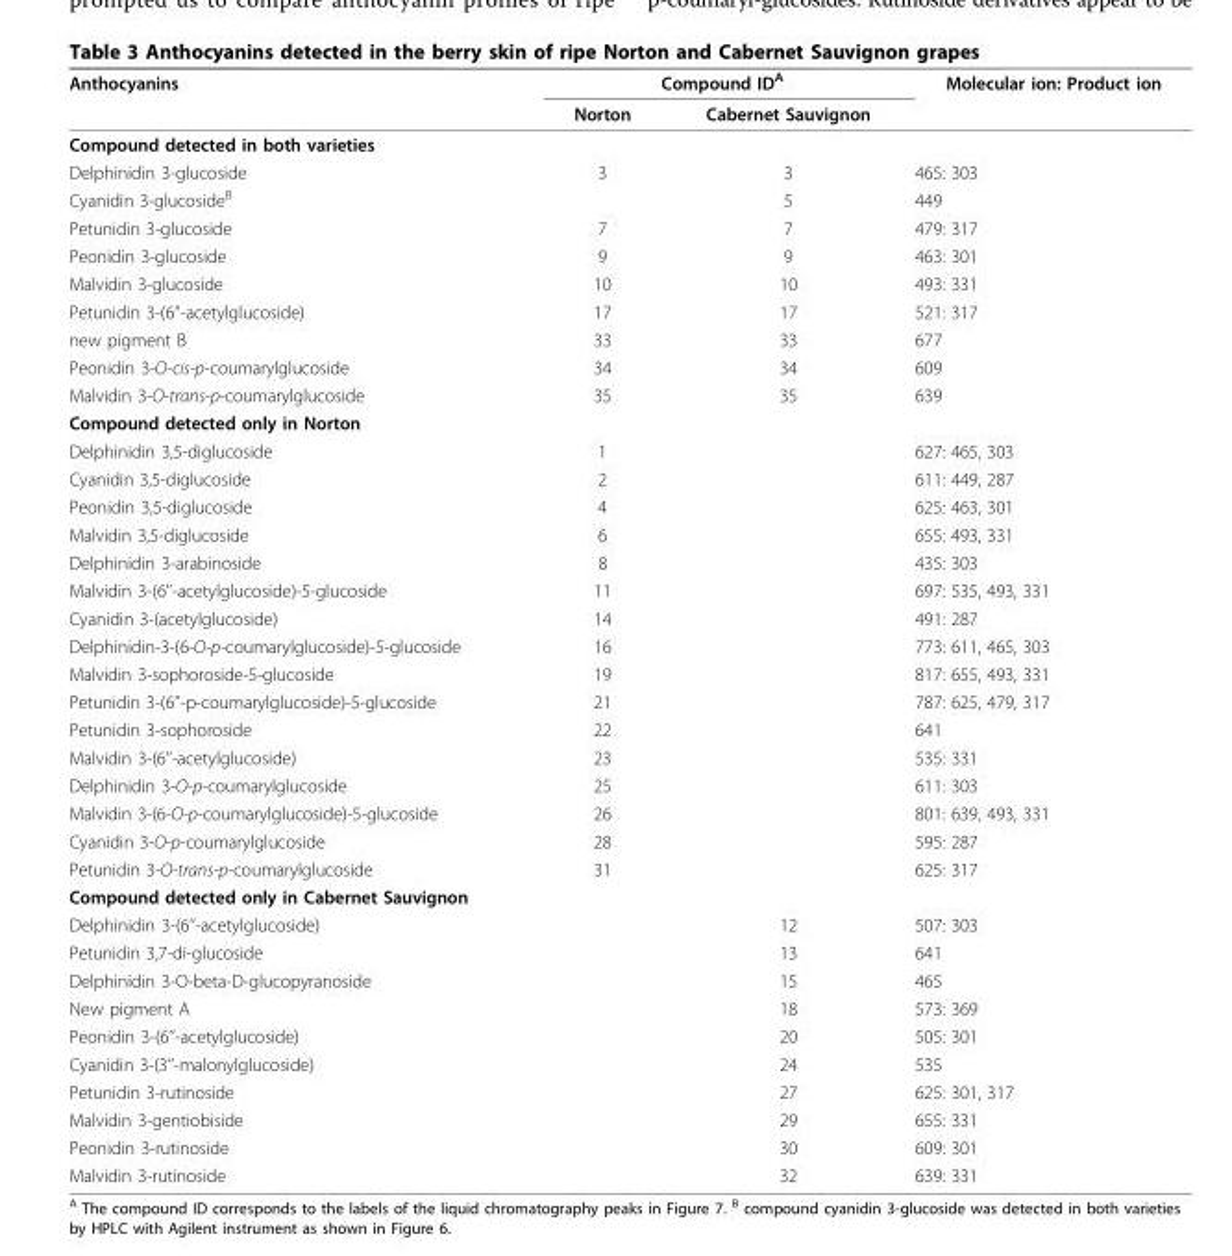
<table><thead><tr><td rowspan="2">Anthocyanins</td><td colspan="2">Compound ID<sup>A</sup></td><td rowspan="2">Molecular ion: Product ion</td></tr><tr><td>Norton</td><td>Cabernet Sauvignon</td></tr></thead><tbody><tr><td colspan="4">Compound detected in both varieties</td></tr><tr><td>Delphinidin 3-glucoside</td><td>3</td><td>3</td><td>465: 303</td></tr><tr><td>Cyanidin 3-glucoside<sup>B</sup></td><td></td><td>5</td><td>449</td></tr><tr><td>Petunidin 3-glucoside</td><td>7</td><td>7</td><td>479: 317</td></tr><tr><td>Peonidin 3-glucoside</td><td>9</td><td>9</td><td>463: 301</td></tr><tr><td>Malvidin 3-glucoside</td><td>10</td><td>10</td><td>493: 331</td></tr><tr><td>Petunidin 3-(6’’-acetylglucoside)</td><td>17</td><td>17</td><td>521: 317</td></tr><tr><td>new pigment B</td><td>33</td><td>33</td><td>677</td></tr><tr><td>Peonidin 3-O-cis-p-coumarylglucoside</td><td>34</td><td>34</td><td>609</td></tr><tr><td>Malvidin 3-O-trans-p-coumarylglucoside</td><td>35</td><td>35</td><td>639</td></tr><tr><td colspan="4">Compound detected only in Norton</td></tr><tr><td>Delphinidin 3,5-diglucoside</td><td>1</td><td></td><td>627: 465, 303</td></tr><tr><td>Cyanidin 3,5-diglucoside</td><td>2</td><td></td><td>611: 449, 287</td></tr><tr><td>Peonidin 3,5-diglucoside</td><td>4</td><td></td><td>625: 463, 301</td></tr><tr><td>Malvidin 3,5-diglucoside</td><td>6</td><td></td><td>655: 493, 331</td></tr><tr><td>Delphinidin 3-arabinoside</td><td>8</td><td></td><td>435: 303</td></tr><tr><td>Malvidin 3-(6’’-acetylglucoside)-5-glucoside</td><td>11</td><td></td><td>697: 535, 493, 331</td></tr><tr><td>Cyanidin 3-(acetylglucoside)</td><td>14</td><td></td><td>491: 287</td></tr><tr><td>Delphinidin-3-(6-O-p-coumarylglucoside)-5-glucoside</td><td>16</td><td></td><td>773: 611, 465, 303</td></tr><tr><td>Malvidin 3-sophoroside-5-glucoside</td><td>19</td><td></td><td>817: 655, 493, 331</td></tr><tr><td>Petunidin 3-(6’’-p-coumarylglucoside)-5-glucoside</td><td>21</td><td></td><td>787: 625, 479, 317</td></tr><tr><td>Petunidin 3-sophoroside</td><td>22</td><td></td><td>641</td></tr><tr><td>Malvidin 3-(6’’-acetylglucoside)</td><td>23</td><td></td><td>535: 331</td></tr><tr><td>Delphinidin 3-O-p-coumarylglucoside</td><td>25</td><td></td><td>611: 303</td></tr><tr><td>Malvidin 3-(6-O-p-coumarylglucoside)-5-glucoside</td><td>26</td><td></td><td>801: 639, 493, 331</td></tr><tr><td>Cyanidin 3-O-p-coumarylglucoside</td><td>28</td><td></td><td>595: 287</td></tr><tr><td>Petunidin 3-O-trans-p-coumarylglucoside</td><td>31</td><td></td><td>625: 317</td></tr><tr><td colspan="4">Compound detected only in Cabernet Sauvignon</td></tr><tr><td>Delphinidin 3-(6’’-acetylglucoside)</td><td></td><td>12</td><td>507: 303</td></tr><tr><td>Petunidin 3,7-di-glucoside</td><td></td><td>13</td><td>641</td></tr><tr><td>Delphinidin 3-O-beta-D-glucopyranoside</td><td></td><td>15</td><td>465</td></tr><tr><td>New pigment A</td><td></td><td>18</td><td>573: 369</td></tr><tr><td>Peonidin 3-(6’’-acetylglucoside)</td><td></td><td>20</td><td>505: 301</td></tr><tr><td>Cyanidin 3-(3’’-malonylglucoside)</td><td></td><td>24</td><td>535</td></tr><tr><td>Petunidin 3-rutinoside</td><td></td><td>27</td><td>625: 301, 317</td></tr><tr><td>Malvidin 3-gentiobiside</td><td></td><td>29</td><td>655: 331</td></tr><tr><td>Peonidin 3-rutinoside</td><td></td><td>30</td><td>609: 301</td></tr><tr><td>Malvidin 3-rutinoside</td><td></td><td>32</td><td>639: 331</td></tr></tbody></table>